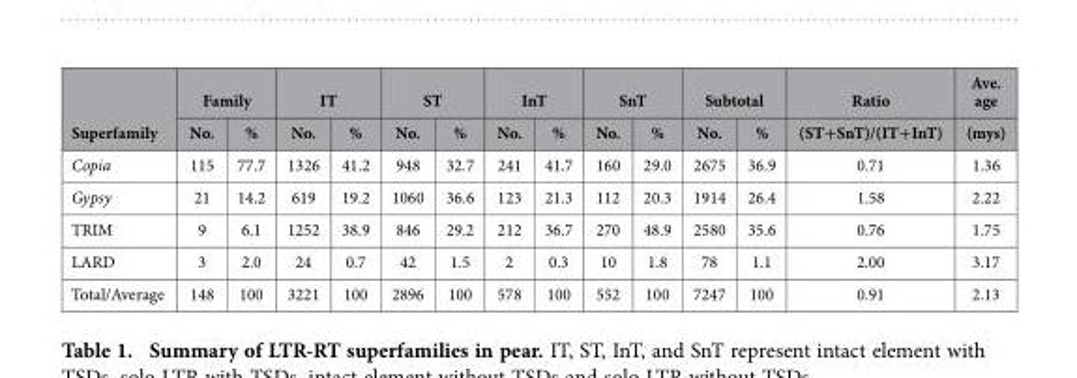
<table><thead><tr><td rowspan="2">Superfamily</td><td colspan="2">Family</td><td colspan="2">IT</td><td colspan="2">ST</td><td colspan="2">InT</td><td colspan="2">SnT</td><td colspan="2">Subtotal</td><td rowspan="2">Ratio (ST+SnT)/(IT+InT)</td><td rowspan="2">Ave. age (mys)</td></tr><tr><td>No.</td><td>%</td><td>No.</td><td>%</td><td>No.</td><td>%</td><td>No.</td><td>%</td><td>No.</td><td>%</td><td>No.</td><td>%</td></tr></thead><tbody><tr><td>Copia</td><td>115</td><td>77.7</td><td>1326</td><td>41.2</td><td>948</td><td>32.7</td><td>241</td><td>41.7</td><td>160</td><td>29.0</td><td>2675</td><td>36.9</td><td>0.71</td><td>1.36</td></tr><tr><td>Gypsy</td><td>21</td><td>14.2</td><td>619</td><td>19.2</td><td>1060</td><td>36.6</td><td>123</td><td>21.3</td><td>112</td><td>20.3</td><td>1914</td><td>26.4</td><td>1.58</td><td>2.22</td></tr><tr><td>TRIM</td><td>9</td><td>6.1</td><td>1252</td><td>38.9</td><td>846</td><td>29.2</td><td>212</td><td>36.7</td><td>270</td><td>48.9</td><td>2580</td><td>35.6</td><td>0.76</td><td>1.75</td></tr><tr><td>LARD</td><td>3</td><td>2.0</td><td>24</td><td>0.7</td><td>42</td><td>1.5</td><td>2</td><td>0.3</td><td>10</td><td>1.8</td><td>78</td><td>1.1</td><td>2.00</td><td>3.17</td></tr><tr><td>Total/Average</td><td>148</td><td>100</td><td>3221</td><td>100</td><td>2896</td><td>100</td><td>578</td><td>100</td><td>552</td><td>100</td><td>7247</td><td>100</td><td>0.91</td><td>2.13</td></tr></tbody></table>